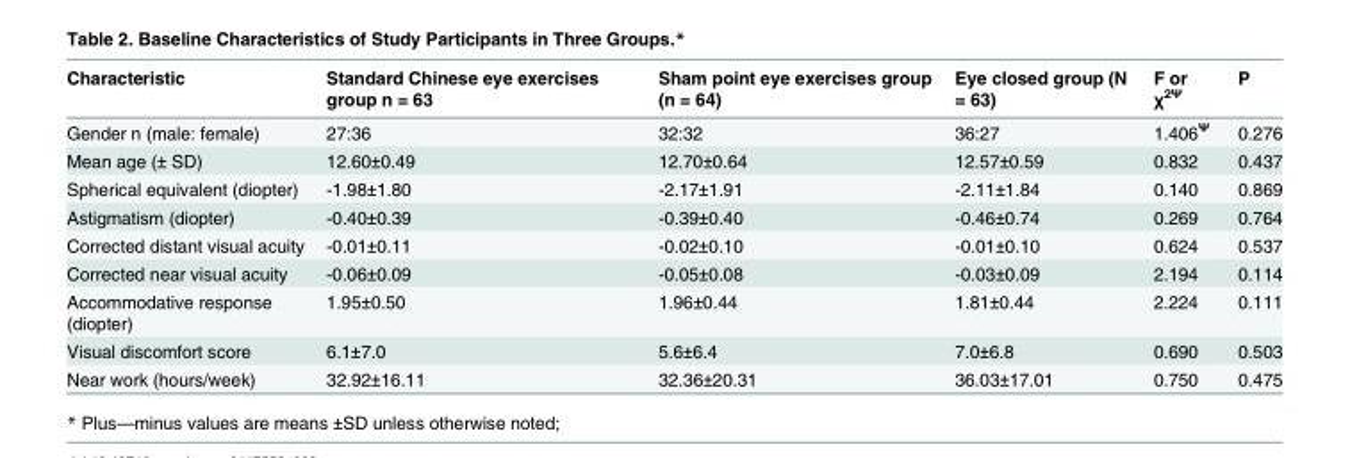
<table><thead><tr><td>Characteristic</td><td>Standard Chinese eye exercises group（n = 63）</td><td>Sham point eye exercises group (n = 64)</td><td>Eye closed group (N = 63)</td><td>F or χ<sup>2Ψ</sup></td><td>P</td></tr></thead><tbody><tr><td>Gender n (male: female)</td><td>27:36</td><td>32:32</td><td>36:27</td><td>1.406<sup>Ψ</sup></td><td>0.276</td></tr><tr><td>Mean age (± SD)</td><td>12.60±0.49</td><td>12.70±0.64</td><td>12.57±0.59</td><td>0.832</td><td>0.437</td></tr><tr><td>Spherical equivalent (diopter)</td><td>-1.98±1.80</td><td>-2.17±1.91</td><td>-2.11±1.84</td><td>0.140</td><td>0.869</td></tr><tr><td>Astigmatism (diopter)</td><td>-0.40±0.39</td><td>-0.39±0.40</td><td>-0.46±0.74</td><td>0.269</td><td>0.764</td></tr><tr><td>Corrected distant visual acuity</td><td>-0.01±0.11</td><td>-0.02±0.10</td><td>-0.01±0.10</td><td>0.624</td><td>0.537</td></tr><tr><td>Corrected near visual acuity</td><td>-0.06±0.09</td><td>-0.05±0.08</td><td>-0.03±0.09</td><td>2.194</td><td>0.114</td></tr><tr><td>Accommodative response (diopter)</td><td>1.95±0.50</td><td>1.96±0.44</td><td>1.81±0.44</td><td>2.224</td><td>0.111</td></tr><tr><td>Visual discomfort score</td><td>6.1±7.0</td><td>5.6±6.4</td><td>7.0±6.8</td><td>0.690</td><td>0.503</td></tr><tr><td>Near work (hours/week)</td><td>32.92±16.11</td><td>32.36±20.31</td><td>36.03±17.01</td><td>0.750</td><td>0.475</td></tr></tbody></table>